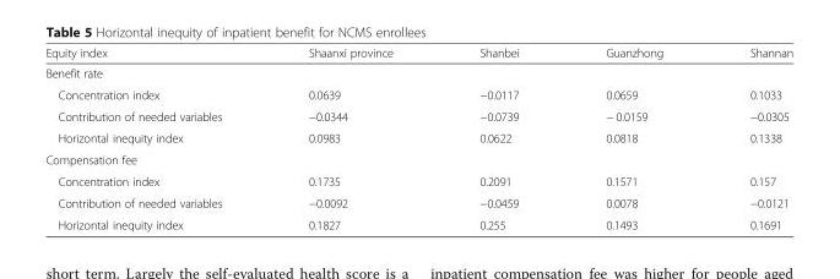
<table><thead><tr><td>Equity index</td><td>Shaanxi province</td><td>Shanbei</td><td>Guanzhong</td><td>Shannan</td></tr></thead><tbody><tr><td colspan="5">Benefit rate</td></tr><tr><td>Concentration index</td><td>0.0639</td><td>−0.0117</td><td>0.0659</td><td>0.1033</td></tr><tr><td>Contribution of needed variables</td><td>−0.0344</td><td>−0.0739</td><td>− 0.0159</td><td>−0.0305</td></tr><tr><td>Horizontal inequity index</td><td>0.0983</td><td>0.0622</td><td>0.0818</td><td>0.1338</td></tr><tr><td colspan="5">Compensation fee</td></tr><tr><td>Concentration index</td><td>0.1735</td><td>0.2091</td><td>0.1571</td><td>0.157</td></tr><tr><td>Contribution of needed variables</td><td>−0.0092</td><td>−0.0459</td><td>0.0078</td><td>−0.0121</td></tr><tr><td>Horizontal inequity index</td><td>0.1827</td><td>0.255</td><td>0.1493</td><td>0.1691</td></tr></tbody></table>